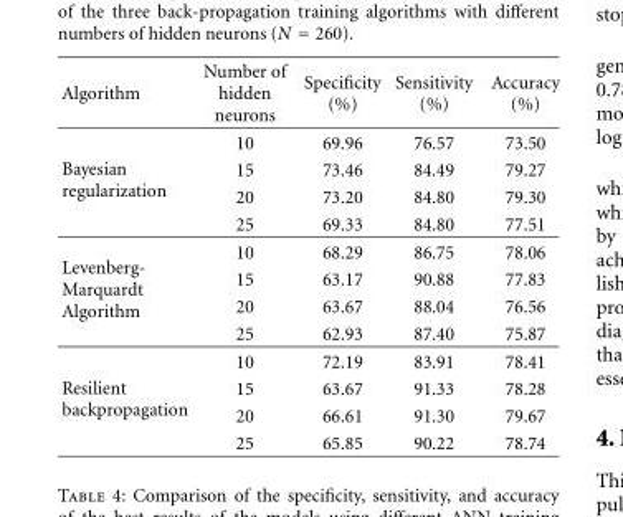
<table><thead><tr><td>Algorithm</td><td>Number of hidden neurons</td><td>Specificity (%)</td><td>Sensitivity (%)</td><td>Accuracy (%)</td></tr></thead><tbody><tr><td rowspan="4">Bayesian regularization</td><td>10</td><td>69.96</td><td>76.57</td><td>73.50</td></tr><tr><td>15</td><td>73.46</td><td>84.49</td><td>79.27</td></tr><tr><td>20</td><td>73.20</td><td>84.80</td><td>79.30</td></tr><tr><td>25</td><td>69.33</td><td>84.80</td><td>77.51</td></tr><tr><td rowspan="4">Levenberg- Marquardt Algorithm</td><td>10</td><td>68.29</td><td>86.75</td><td>78.06</td></tr><tr><td>15</td><td>63.17</td><td>90.88</td><td>77.83</td></tr><tr><td>20</td><td>63.67</td><td>88.04</td><td>76.56</td></tr><tr><td>25</td><td>62.93</td><td>87.40</td><td>75.87</td></tr><tr><td rowspan="4">Resilient backpropagation</td><td>10</td><td>72.19</td><td>83.91</td><td>78.41</td></tr><tr><td>15</td><td>63.67</td><td>91.33</td><td>78.28</td></tr><tr><td>20</td><td>66.61</td><td>91.30</td><td>79.67</td></tr><tr><td>25</td><td>65.85</td><td>90.22</td><td>78.74</td></tr></tbody></table>